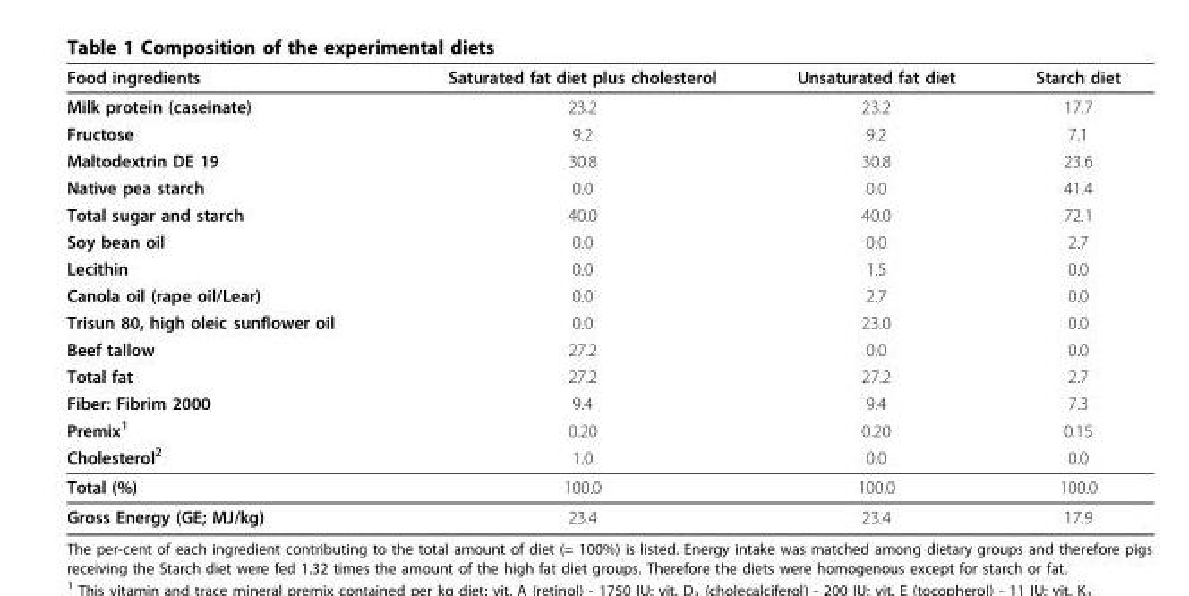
<table><thead><tr><td>Food ingredients</td><td>Saturated fat diet plus cholesterol</td><td>Unsaturated fat diet</td><td>Starch diet</td></tr></thead><tbody><tr><td>Milk protein (caseinate)</td><td>23.2</td><td>23.2</td><td>17.7</td></tr><tr><td>Fructose</td><td>9.2</td><td>9.2</td><td>7.1</td></tr><tr><td>Maltodextrin DE 19</td><td>30.8</td><td>30.8</td><td>23.6</td></tr><tr><td>Native pea starch</td><td>0.0</td><td>0.0</td><td>41.4</td></tr><tr><td>Total sugar and starch</td><td>40.0</td><td>40.0</td><td>72.1</td></tr><tr><td>Soy bean oil</td><td>0.0</td><td>0.0</td><td>2.7</td></tr><tr><td>Lecithin</td><td>0.0</td><td>1.5</td><td>0.0</td></tr><tr><td>Canola oil (rape oil/Lear)</td><td>0.0</td><td>2.7</td><td>0.0</td></tr><tr><td>Trisun 80, high oleic sunflower oil</td><td>0.0</td><td>23.0</td><td>0.0</td></tr><tr><td>Beef tallow</td><td>27.2</td><td>0.0</td><td>0.0</td></tr><tr><td>Total fat</td><td>27.2</td><td>27.2</td><td>2.7</td></tr><tr><td>Fiber: Fibrim 2000</td><td>9.4</td><td>9.4</td><td>7.3</td></tr><tr><td>Premix<sup>1</sup></td><td>0.20</td><td>0.20</td><td>0.15</td></tr><tr><td>Cholesterol<sup>2</sup></td><td>1.0</td><td>0.0</td><td>0.0</td></tr><tr><td>Total (%)</td><td>100.0</td><td>100.0</td><td>100.0</td></tr><tr><td>Gross Energy (GE; MJ/kg)</td><td>23.4</td><td>23.4</td><td>17.9</td></tr></tbody></table>